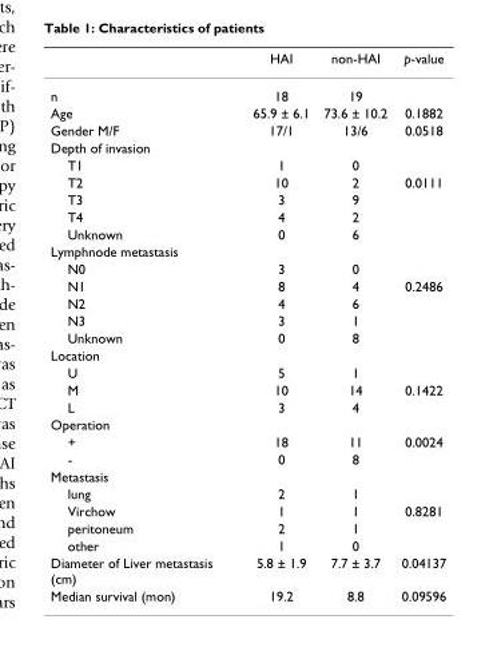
<table><thead><tr><td></td><td>HAI</td><td>non-HAI</td><td>p-value</td></tr></thead><tbody><tr><td>n</td><td>18</td><td>19</td><td></td></tr><tr><td>Age</td><td>65.9 ± 6.1</td><td>73.6 ± 10.2</td><td>0.1882</td></tr><tr><td>Gender M/F</td><td>17/1</td><td>13/6</td><td>0.0518</td></tr><tr><td colspan="4">Depth of invasion</td></tr><tr><td>T1</td><td>1</td><td>0</td><td></td></tr><tr><td>T2</td><td>10</td><td>2</td><td>0.0111</td></tr><tr><td>T3</td><td>3</td><td>9</td><td></td></tr><tr><td>T4</td><td>4</td><td>2</td><td></td></tr><tr><td>Unknown</td><td>0</td><td>6</td><td></td></tr><tr><td colspan="4">Lymphnode metastasis</td></tr><tr><td>N0</td><td>3</td><td>0</td><td></td></tr><tr><td>N1</td><td>8</td><td>4</td><td>0.2486</td></tr><tr><td>N2</td><td>4</td><td>6</td><td></td></tr><tr><td>N3</td><td>3</td><td>1</td><td></td></tr><tr><td>Unknown</td><td>0</td><td>8</td><td></td></tr><tr><td colspan="4">Location</td></tr><tr><td>U</td><td>5</td><td>1</td><td></td></tr><tr><td>M</td><td>10</td><td>14</td><td>0.1422</td></tr><tr><td>L</td><td>3</td><td>4</td><td></td></tr><tr><td colspan="4">Operation</td></tr><tr><td>+</td><td>18</td><td>11</td><td>0.0024</td></tr><tr><td>-</td><td>0</td><td>8</td><td></td></tr><tr><td colspan="4">Metastasis</td></tr><tr><td>lung</td><td>2</td><td>1</td><td></td></tr><tr><td>Virchow</td><td>1</td><td>1</td><td>0.8281</td></tr><tr><td>peritoneum</td><td>2</td><td>1</td><td></td></tr><tr><td>other</td><td>1</td><td>0</td><td></td></tr><tr><td>Diameter of Liver metastasis (cm)</td><td>5.8 ± 1.9</td><td>7.7 ± 3.7</td><td>0.04137</td></tr><tr><td>Median survival (mon)</td><td>19.2</td><td>8.8</td><td>0.09596</td></tr></tbody></table>